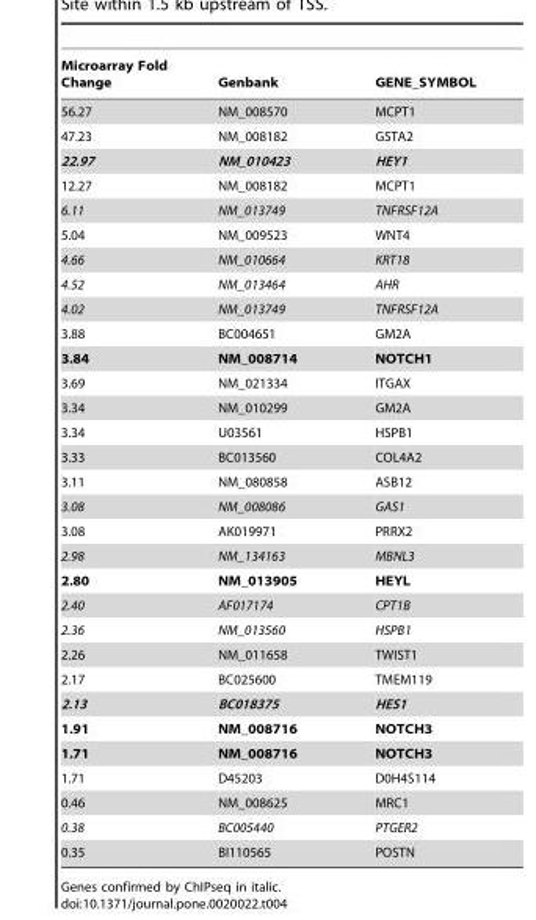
<table><thead><tr><td>Microarray Fold Change</td><td>Genbank</td><td>GENE_SYMBOL</td></tr></thead><tbody><tr><td>56.27</td><td>NM_008570</td><td>MCPT1</td></tr><tr><td>47.23</td><td>NM_008182</td><td>GSTA2</td></tr><tr><td>22.97</td><td>NM_010423</td><td>HEY1</td></tr><tr><td>12.27</td><td>NM_008182</td><td>MCPT1</td></tr><tr><td>6.11</td><td>NM_013749</td><td>TNFRSF12A</td></tr><tr><td>5.04</td><td>NM_009523</td><td>WNT4</td></tr><tr><td>4.66</td><td>NM_010664</td><td>KRT18</td></tr><tr><td>4.52</td><td>NM_013464</td><td>AHR</td></tr><tr><td>4.02</td><td>NM_013749</td><td>TNFRSF12A</td></tr><tr><td>3.88</td><td>BC004651</td><td>GM2A</td></tr><tr><td>3.84</td><td>NM_008714</td><td>NOTCH1</td></tr><tr><td>3.69</td><td>NM_021334</td><td>ITGAX</td></tr><tr><td>3.34</td><td>NM_010299</td><td>GM2A</td></tr><tr><td>3.34</td><td>U03561</td><td>HSPB1</td></tr><tr><td>3.33</td><td>BC013560</td><td>COL4A2</td></tr><tr><td>3.11</td><td>NM_080858</td><td>ASB12</td></tr><tr><td>3.08</td><td>NM_008086</td><td>GAS1</td></tr><tr><td>3.08</td><td>AK019971</td><td>PRRX2</td></tr><tr><td>2.98</td><td>NM_134163</td><td>MBNL3</td></tr><tr><td>2.80</td><td>NM_013905</td><td>HEYL</td></tr><tr><td>2.40</td><td>AF017174</td><td>CPT1B</td></tr><tr><td>2.36</td><td>NM_013560</td><td>HSPB1</td></tr><tr><td>2.26</td><td>NM_011658</td><td>TWIST1</td></tr><tr><td>2.17</td><td>BC025600</td><td>TMEM119</td></tr><tr><td>2.13</td><td>BC018375</td><td>HES1</td></tr><tr><td>1.91</td><td>NM_008716</td><td>NOTCH3</td></tr><tr><td>1.71</td><td>NM_008716</td><td>NOTCH3</td></tr><tr><td>1.71</td><td>D45203</td><td>D0H4S114</td></tr><tr><td>0.46</td><td>NM_008625</td><td>MRC1</td></tr><tr><td>0.38</td><td>BC005440</td><td>PTGER2</td></tr><tr><td>0.35</td><td>BI110565</td><td>POSTN</td></tr></tbody></table>